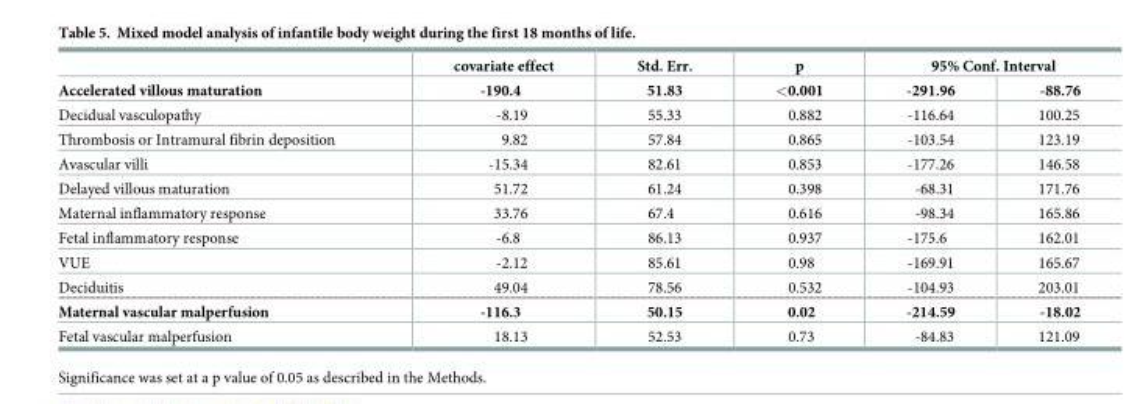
<table><thead><tr><td rowspan="2">Accelerated villous maturation</td><td rowspan="2">covariate effect -190.4</td><td rowspan="2">Std. Err. 51.83</td><td rowspan="2">p &lt;0.001</td><td colspan="2">95% Conf. Interval</td></tr><tr><td>-291.96</td><td>-88.76</td></tr></thead><tbody><tr><td>Decidual vasculopathy</td><td>-8.19</td><td>55.33</td><td>0.882</td><td>-116.64</td><td>100.25</td></tr><tr><td>Thrombosis or Intramural fibrin deposition</td><td>9.82</td><td>57.84</td><td>0.865</td><td>-103.54</td><td>123.19</td></tr><tr><td>Avascular villi</td><td>-15.34</td><td>82.61</td><td>0.853</td><td>-177.26</td><td>146.58</td></tr><tr><td>Delayed villous maturation</td><td>51.72</td><td>61.24</td><td>0.398</td><td>-68.31</td><td>171.76</td></tr><tr><td>Maternal inflammatory response</td><td>33.76</td><td>67.4</td><td>0.616</td><td>-98.34</td><td>165.86</td></tr><tr><td>Fetal inflammatory response</td><td>-6.8</td><td>86.13</td><td>0.937</td><td>-175.6</td><td>162.01</td></tr><tr><td>VUE</td><td>-2.12</td><td>85.61</td><td>0.98</td><td>-169.91</td><td>165.67</td></tr><tr><td>Deciduitis</td><td>49.04</td><td>78.56</td><td>0.532</td><td>-104.93</td><td>203.01</td></tr><tr><td>Maternal vascular malperfusion</td><td>-116.3</td><td>50.15</td><td>0.02</td><td>-214.59</td><td>-18.02</td></tr><tr><td>Fetal vascular malperfusion</td><td>18.13</td><td>52.53</td><td>0.73</td><td>-84.83</td><td>121.09</td></tr></tbody></table>